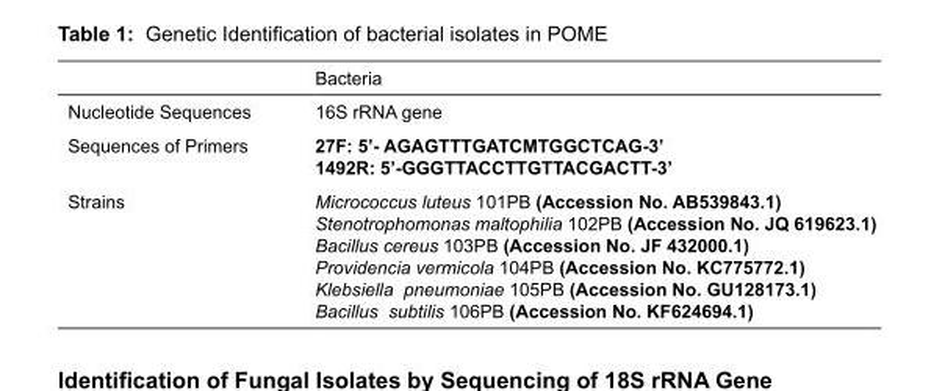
<table><thead><tr><td></td><td>Bacteria</td></tr></thead><tbody><tr><td>Nucleotide Sequences</td><td>16S rRNA gene</td></tr><tr><td rowspan="2">Sequences of Primers</td><td>27F: 5’- AGAGTTTGATCMTGGCTCAG-3’</td></tr><tr><td>1492R: 5’-GGGTTACCTTGTTACGACTT-3’</td></tr><tr><td rowspan="6">Strains</td><td>Micrococcus luteus 101PB (Accession No. AB539843.1)</td></tr><tr><td>Stenotrophomonas maltophilia 102PB (Accession No. JQ 619623.1)</td></tr><tr><td>Bacillus cereus 103PB (Accession No. JF 432000.1)</td></tr><tr><td>Providencia vermicola 104PB (Accession No. KC775772.1)</td></tr><tr><td>Klebsiella pneumoniae 105PB (Accession No. GU128173.1)</td></tr><tr><td>Bacillus subtilis 106PB (Accession No. KF624694.1)</td></tr></tbody></table>